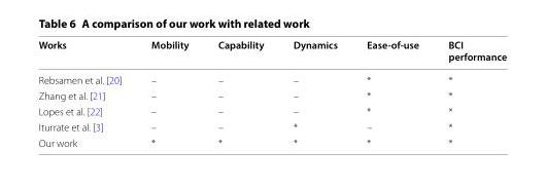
<table><thead><tr><td>Works</td><td>Mobility</td><td>Capability</td><td>Dynamics</td><td>Ease-of-use</td><td>BCI performance</td></tr></thead><tbody><tr><td>Rebsamen et al. [20]</td><td>–</td><td>–</td><td>–</td><td>*</td><td>*</td></tr><tr><td>Zhang et al. [21]</td><td>–</td><td>–</td><td>–</td><td>*</td><td>*</td></tr><tr><td>Lopes et al. [22]</td><td>–</td><td>–</td><td>–</td><td>*</td><td>*</td></tr><tr><td>Iturrate et al. [3]</td><td>–</td><td>–</td><td>*</td><td>–</td><td>*</td></tr><tr><td>Our work</td><td>*</td><td>*</td><td>*</td><td>*</td><td>*</td></tr></tbody></table>